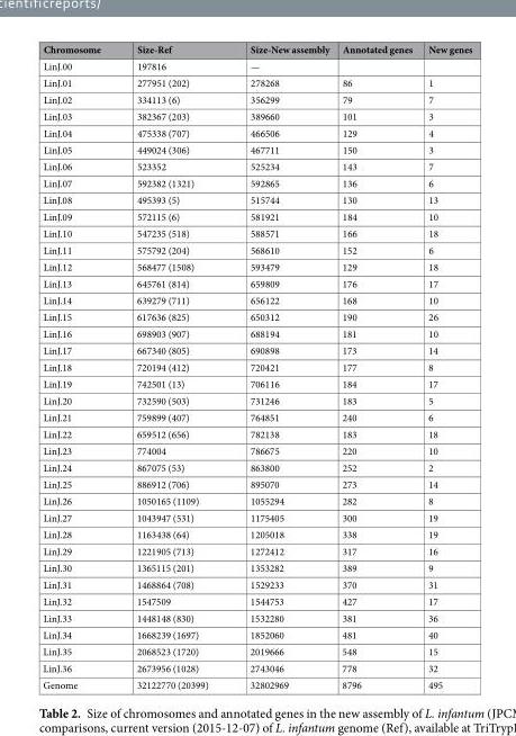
<table><thead><tr><td>Chromosome</td><td>Size-Ref</td><td>Size-New assembly</td><td>Annotated genes</td><td>New genes</td></tr></thead><tbody><tr><td>LinJ.00</td><td>197816</td><td>—</td><td></td><td></td></tr><tr><td>LinJ.01</td><td>277951 (202)</td><td>278268</td><td>86</td><td>1</td></tr><tr><td>LinJ.02</td><td>334113 (6)</td><td>356299</td><td>79</td><td>7</td></tr><tr><td>LinJ.03</td><td>382367 (203)</td><td>389660</td><td>101</td><td>3</td></tr><tr><td>LinJ.04</td><td>475338 (707)</td><td>466506</td><td>129</td><td>4</td></tr><tr><td>LinJ.05</td><td>449024 (306)</td><td>467711</td><td>150</td><td>3</td></tr><tr><td>LinJ.06</td><td>523352</td><td>525234</td><td>143</td><td>7</td></tr><tr><td>LinJ.07</td><td>592382 (1321)</td><td>592865</td><td>136</td><td>6</td></tr><tr><td>LinJ.08</td><td>495393 (5)</td><td>515744</td><td>130</td><td>13</td></tr><tr><td>LinJ.09</td><td>572115 (6)</td><td>581921</td><td>184</td><td>10</td></tr><tr><td>LinJ.10</td><td>547235 (518)</td><td>588571</td><td>166</td><td>18</td></tr><tr><td>LinJ.11</td><td>575792 (204)</td><td>568610</td><td>152</td><td>6</td></tr><tr><td>LinJ.12</td><td>568477 (1508)</td><td>593479</td><td>129</td><td>18</td></tr><tr><td>LinJ.13</td><td>645761 (814)</td><td>659809</td><td>176</td><td>17</td></tr><tr><td>LinJ.14</td><td>639279 (711)</td><td>656122</td><td>168</td><td>10</td></tr><tr><td>LinJ.15</td><td>617636 (825)</td><td>650312</td><td>190</td><td>26</td></tr><tr><td>LinJ.16</td><td>698903 (907)</td><td>688194</td><td>181</td><td>10</td></tr><tr><td>LinJ.17</td><td>667340 (805)</td><td>690898</td><td>173</td><td>14</td></tr><tr><td>LinJ.18</td><td>720194 (412)</td><td>720421</td><td>177</td><td>8</td></tr><tr><td>LinJ.19</td><td>742501 (13)</td><td>706116</td><td>184</td><td>17</td></tr><tr><td>LinJ.20</td><td>732590 (503)</td><td>731246</td><td>183</td><td>5</td></tr><tr><td>LinJ.21</td><td>759899 (407)</td><td>764851</td><td>240</td><td>6</td></tr><tr><td>LinJ.22</td><td>659512 (656)</td><td>782138</td><td>183</td><td>18</td></tr><tr><td>LinJ.23</td><td>774004</td><td>786675</td><td>220</td><td>10</td></tr><tr><td>LinJ.24</td><td>867075 (53)</td><td>863800</td><td>252</td><td>2</td></tr><tr><td>LinJ.25</td><td>886912 (706)</td><td>895070</td><td>273</td><td>14</td></tr><tr><td>LinJ.26</td><td>1050165 (1109)</td><td>1055294</td><td>282</td><td>8</td></tr><tr><td>LinJ.27</td><td>1043947 (531)</td><td>1175405</td><td>300</td><td>19</td></tr><tr><td>LinJ.28</td><td>1163438 (64)</td><td>1205018</td><td>338</td><td>19</td></tr><tr><td>LinJ.29</td><td>1221905 (713)</td><td>1272412</td><td>317</td><td>16</td></tr><tr><td>LinJ.30</td><td>1365115 (201)</td><td>1353282</td><td>389</td><td>9</td></tr><tr><td>LinJ.31</td><td>1468864 (708)</td><td>1529233</td><td>370</td><td>31</td></tr><tr><td>LinJ.32</td><td>1547509</td><td>1544753</td><td>427</td><td>17</td></tr><tr><td>LinJ.33</td><td>1448148 (830)</td><td>1532280</td><td>381</td><td>36</td></tr><tr><td>LinJ.34</td><td>1668239 (1697)</td><td>1852060</td><td>481</td><td>40</td></tr><tr><td>LinJ.35</td><td>2068523 (1720)</td><td>2019666</td><td>548</td><td>15</td></tr><tr><td>LinJ.36</td><td>2673956 (1028)</td><td>2743046</td><td>778</td><td>32</td></tr><tr><td>Genome</td><td>32122770 (20399)</td><td>32802969</td><td>8796</td><td>495</td></tr></tbody></table>